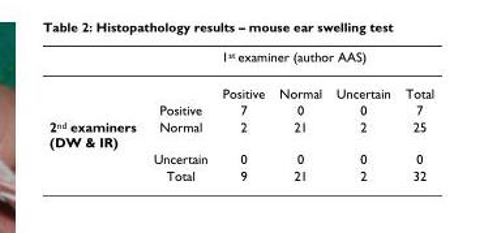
<table><thead><tr><td rowspan="2"></td><td colspan="5">1st examiner (author AAS)</td></tr><tr><td></td><td>Positive</td><td>Normal</td><td>Uncertain</td><td>Total</td></tr></thead><tbody><tr><td></td><td>Positive</td><td>7</td><td>0</td><td>0</td><td>7</td></tr><tr><td rowspan="3">2nd examiners (DW &amp; IR)</td><td>Normal</td><td>2</td><td>21</td><td>2</td><td>25</td></tr><tr><td>Uncertain</td><td>0</td><td>0</td><td>0</td><td>0</td></tr><tr><td>Total</td><td>9</td><td>21</td><td>2</td><td>32</td></tr></tbody></table>